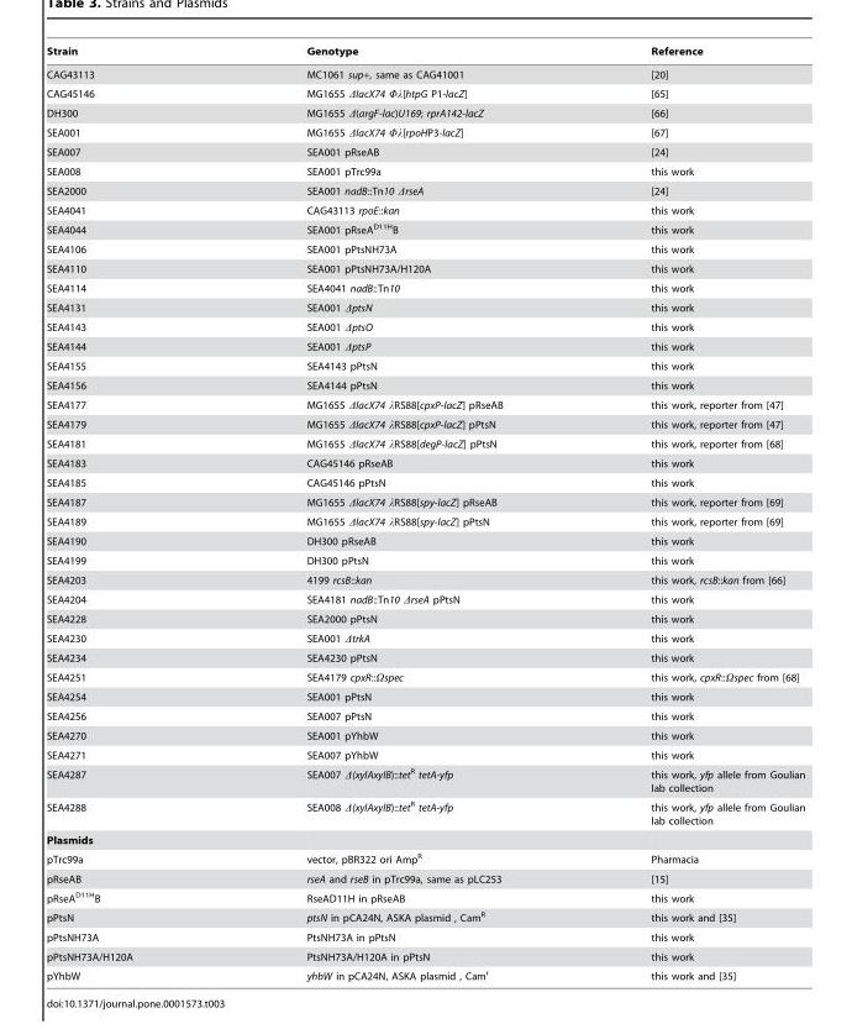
<table><thead><tr><td>Strain</td><td>Genotype</td><td>Reference</td></tr></thead><tbody><tr><td>CAG43113</td><td>MC1061 sup+, same as CAG41001</td><td>[20]</td></tr><tr><td>CAG45146</td><td>MG1655 ΔlacX74 Φλ[htpG P1-lacZ]</td><td>[65]</td></tr><tr><td>DH300</td><td>MG1655 Δ(argF-lac)U169; rprA142-lacZ</td><td>[66]</td></tr><tr><td>SEA001</td><td>MG1655 ΔlacX74 Φλ[rpoHP3-lacZ]</td><td>[67]</td></tr><tr><td>SEA007</td><td>SEA001 pRseAB</td><td>[24]</td></tr><tr><td>SEA008</td><td>SEA001 pTrc99a</td><td>this work</td></tr><tr><td>SEA2000</td><td>SEA001 nadB::Tn10 ΔrseA</td><td>[24]</td></tr><tr><td>SEA4041</td><td>CAG43113 rpoE::kan</td><td>this work</td></tr><tr><td>SEA4044</td><td>SEA001 pRseA<sup>D11H</sup>B</td><td>this work</td></tr><tr><td>SEA4106</td><td>SEA001 pPtsNH73A</td><td>this work</td></tr><tr><td>SEA4110</td><td>SEA001 pPtsNH73A/H120A</td><td>this work</td></tr><tr><td>SEA4114</td><td>SEA4041 nadB::Tn10</td><td>this work</td></tr><tr><td>SEA4131</td><td>SEA001 ΔptsN</td><td>this work</td></tr><tr><td>SEA4143</td><td>SEA001 ΔptsO</td><td>this work</td></tr><tr><td>SEA4144</td><td>SEA001 ΔptsP</td><td>this work</td></tr><tr><td>SEA4155</td><td>SEA4143 pPtsN</td><td>this work</td></tr><tr><td>SEA4156</td><td>SEA4144 pPtsN</td><td>this work</td></tr><tr><td>SEA4177</td><td>MG1655 ΔlacX74 λRS88[cpxP-lacZ] pRseAB</td><td>this work, reporter from [47]</td></tr><tr><td>SEA4179</td><td>MG1655 ΔlacX74 λRS88[cpxP-lacZ] pPtsN</td><td>this work, reporter from [47]</td></tr><tr><td>SEA4181</td><td>MG1655 ΔlacX74 λRS88[degP-lacZ] pPtsN</td><td>this work, reporter from [68]</td></tr><tr><td>SEA4183</td><td>CAG45146 pRseAB</td><td>this work</td></tr><tr><td>SEA4185</td><td>CAG45146 pPtsN</td><td>this work</td></tr><tr><td>SEA4187</td><td>MG1655 ΔlacX74 λRS88[spy-lacZ] pRseAB</td><td>this work, reporter from [69]</td></tr><tr><td>SEA4189</td><td>MG1655 ΔlacX74 λRS88[spy-lacZ] pPtsN</td><td>this work, reporter from [69]</td></tr><tr><td>SEA4190</td><td>DH300 pRseAB</td><td>this work</td></tr><tr><td>SEA4199</td><td>DH300 pPtsN</td><td>this work</td></tr><tr><td>SEA4203</td><td>4199 rcsB::kan</td><td>this work, rcsB::kan from [66]</td></tr><tr><td>SEA4204</td><td>SEA4181 nadB::Tn10 ΔrseA pPtsN</td><td>this work</td></tr><tr><td>SEA4228</td><td>SEA2000 pPtsN</td><td>this work</td></tr><tr><td>SEA4230</td><td>SEA001 ΔtrkA</td><td>this work</td></tr><tr><td>SEA4234</td><td>SEA4230 pPtsN</td><td>this work</td></tr><tr><td>SEA4251</td><td>SEA4179 cpxR::Ωspec</td><td>this work, cpxR::Ωspec from [68]</td></tr><tr><td>SEA4254</td><td>SEA001 pPtsN</td><td>this work</td></tr><tr><td>SEA4256</td><td>SEA007 pPtsN</td><td>this work</td></tr><tr><td>SEA4270</td><td>SEA001 pYhbW</td><td>this work</td></tr><tr><td>SEA4271</td><td>SEA007 pYhbW</td><td>this work</td></tr><tr><td>SEA4287</td><td>SEA007 Δ(xylAxylB)::tet<sup>R</sup> tetA-yfp</td><td>this work, yfp allele from Goulian lab collection</td></tr><tr><td>SEA4288</td><td>SEA008 Δ(xylAxylB)::tet<sup>R</sup> tetA-yfp</td><td>this work, yfp allele from Goulian lab collection</td></tr><tr><td colspan="3">Plasmids</td></tr><tr><td>pTrc99a</td><td>vector, pBR322 ori Amp<sup>R</sup></td><td>Pharmacia</td></tr><tr><td>pRseAB</td><td>rseA and rseB in pTrc99a, same as pLC253</td><td>[15]</td></tr><tr><td>pRseA<sup>D11H</sup>B</td><td>RseAD11H in pRseAB</td><td>this work</td></tr><tr><td>pPtsN</td><td>ptsN in pCA24N, ASKA plasmid , Cam<sup>R</sup></td><td>this work and [35]</td></tr><tr><td>pPtsNH73A</td><td>PtsNH73A in pPtsN</td><td>this work</td></tr><tr><td>pPtsNH73A/H120A</td><td>PtsNH73A/H120A in pPtsN</td><td>this work</td></tr><tr><td>pYhbW</td><td>yhbW in pCA24N, ASKA plasmid , Cam<sup>r</sup></td><td>this work and [35]</td></tr></tbody></table>